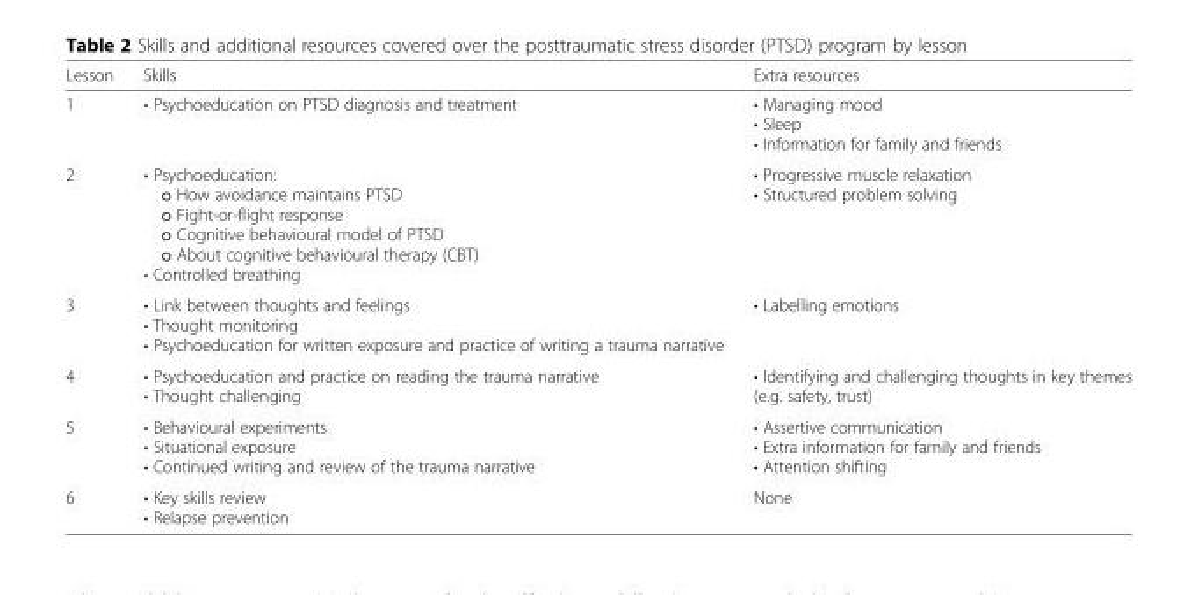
<table><thead><tr><td>Lesson</td><td>Skills</td><td>Extra resources</td></tr></thead><tbody><tr><td>1</td><td>• Psychoeducation on PTSD diagnosis and treatment</td><td>• Managing mood • Sleep • Information for family and friends</td></tr><tr><td>2</td><td>• Psychoeducation: o How avoidance maintains PTSD o Fight-or-flight response o Cognitive behavioural model of PTSD o About cognitive behavioural therapy (CBT) • Controlled breathing</td><td>• Progressive muscle relaxation • Structured problem solving</td></tr><tr><td>3</td><td>• Link between thoughts and feelings • Thought monitoring • Psychoeducation for written exposure and practice of writing a trauma narrative</td><td>• Labelling emotions</td></tr><tr><td>4</td><td>• Psychoeducation and practice on reading the trauma narrative • Thought challenging</td><td>• Identifying and challenging thoughts in key themes (e.g. safety, trust)</td></tr><tr><td>5</td><td>• Behavioural experiments • Situational exposure • Continued writing and review of the trauma narrative</td><td>• Assertive communication • Extra information for family and friends • Attention shifting</td></tr><tr><td>6</td><td>• Key skills review • Relapse prevention</td><td>None</td></tr></tbody></table>